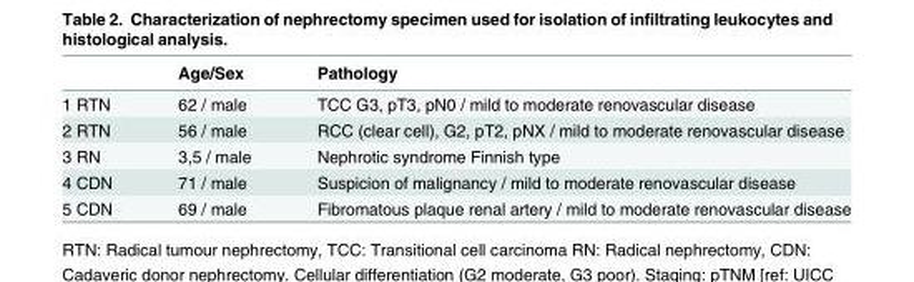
<table><thead><tr><td></td><td>Age/Sex</td><td>Pathology</td></tr></thead><tbody><tr><td>1 RTN</td><td>62 / male</td><td>TCC G3, pT3, pN0 / mild to moderate renovascular disease</td></tr><tr><td>2 RTN</td><td>56 / male</td><td>RCC (clear cell), G2, pT2, pNX / mild to moderate renovascular disease</td></tr><tr><td>3 RN</td><td>3,5 / male</td><td>Nephrotic syndrome Finnish type</td></tr><tr><td>4 CDN</td><td>71 / male</td><td>Suspicion of malignancy / mild to moderate renovascular disease</td></tr><tr><td>5 CDN</td><td>69 / male</td><td>Fibromatous plaque renal artery / mild to moderate renovascular disease</td></tr></tbody></table>